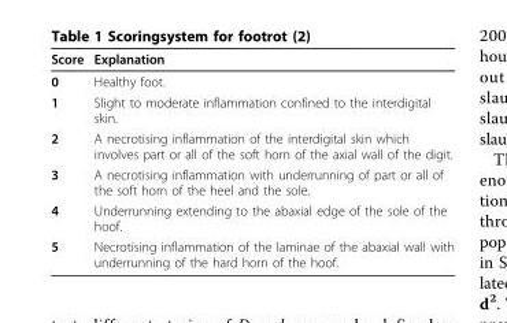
<table><thead><tr><td>Score</td><td>Explanation</td></tr></thead><tbody><tr><td>0</td><td>Healthy foot.</td></tr><tr><td>1</td><td>Slight to moderate inflammation confined to the interdigital skin.</td></tr><tr><td>2</td><td>A necrotising inflammation of the interdigital skin which involves part or all of the soft horn of the axial wall of the digit.</td></tr><tr><td>3</td><td>A necrotising inflammation with underrunning of part or all of the soft horn of the heel and the sole.</td></tr><tr><td>4</td><td>Underrunning extending to the abaxial edge of the sole of the hoof.</td></tr><tr><td>5</td><td>Necrotising inflammation of the laminae of the abaxial wall with underrunning of the hard horn of the hoof.</td></tr></tbody></table>